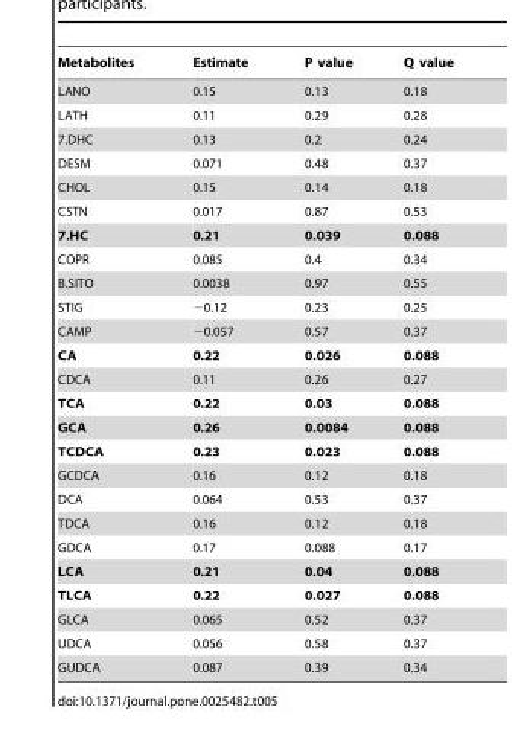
<table><thead><tr><td>Metabolites</td><td>Estimate</td><td>P value</td><td>Q value</td></tr></thead><tbody><tr><td>LANO</td><td>0.15</td><td>0.13</td><td>0.18</td></tr><tr><td>LATH</td><td>0.11</td><td>0.29</td><td>0.28</td></tr><tr><td>7.DHC</td><td>0.13</td><td>0.2</td><td>0.24</td></tr><tr><td>DESM</td><td>0.071</td><td>0.48</td><td>0.37</td></tr><tr><td>CHOL</td><td>0.15</td><td>0.14</td><td>0.18</td></tr><tr><td>CSTN</td><td>0.017</td><td>0.87</td><td>0.53</td></tr><tr><td>7.HC</td><td>0.21</td><td>0.039</td><td>0.088</td></tr><tr><td>COPR</td><td>0.085</td><td>0.4</td><td>0.34</td></tr><tr><td>B.SITO</td><td>0.0038</td><td>0.97</td><td>0.55</td></tr><tr><td>STIG</td><td>−0.12</td><td>0.23</td><td>0.25</td></tr><tr><td>CAMP</td><td>−0.057</td><td>0.57</td><td>0.37</td></tr><tr><td>CA</td><td>0.22</td><td>0.026</td><td>0.088</td></tr><tr><td>CDCA</td><td>0.11</td><td>0.26</td><td>0.27</td></tr><tr><td>TCA</td><td>0.22</td><td>0.03</td><td>0.088</td></tr><tr><td>GCA</td><td>0.26</td><td>0.0084</td><td>0.088</td></tr><tr><td>TCDCA</td><td>0.23</td><td>0.023</td><td>0.088</td></tr><tr><td>GCDCA</td><td>0.16</td><td>0.12</td><td>0.18</td></tr><tr><td>DCA</td><td>0.064</td><td>0.53</td><td>0.37</td></tr><tr><td>TDCA</td><td>0.16</td><td>0.12</td><td>0.18</td></tr><tr><td>GDCA</td><td>0.17</td><td>0.088</td><td>0.17</td></tr><tr><td>LCA</td><td>0.21</td><td>0.04</td><td>0.088</td></tr><tr><td>TLCA</td><td>0.22</td><td>0.027</td><td>0.088</td></tr><tr><td>GLCA</td><td>0.065</td><td>0.52</td><td>0.37</td></tr><tr><td>UDCA</td><td>0.056</td><td>0.58</td><td>0.37</td></tr><tr><td>GUDCA</td><td>0.087</td><td>0.39</td><td>0.34</td></tr></tbody></table>